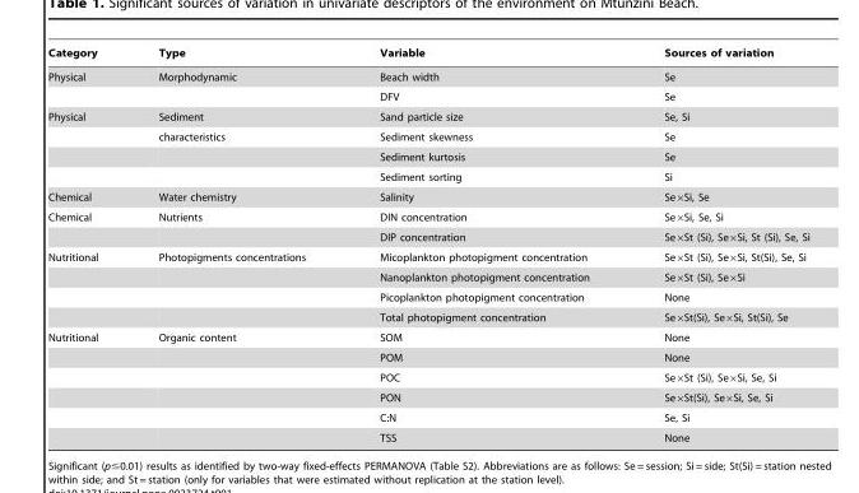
<table><thead><tr><td>Category</td><td>Type</td><td>Variable</td><td>Sources of variation</td></tr></thead><tbody><tr><td rowspan="2">Physical</td><td>Morphodynamic</td><td>Beach width</td><td>Se</td></tr><tr><td></td><td>DFV</td><td>Se</td></tr><tr><td rowspan="4">Physical</td><td>Sediment</td><td>Sand particle size</td><td>Se, Si</td></tr><tr><td>characteristics</td><td>Sediment skewness</td><td>Se</td></tr><tr><td></td><td>Sediment kurtosis</td><td>Se</td></tr><tr><td></td><td>Sediment sorting</td><td>Si</td></tr><tr><td>Chemical</td><td>Water chemistry</td><td>Salinity</td><td>Se×Si, Se</td></tr><tr><td rowspan="2">Chemical</td><td>Nutrients</td><td>DIN concentration</td><td>Se×Si, Se, Si</td></tr><tr><td></td><td>DIP concentration</td><td>Se×St (Si), Se×Si, St (Si), Se, Si</td></tr><tr><td rowspan="4">Nutritional</td><td>Photopigments concentrations</td><td>Micoplankton photopigment concentration</td><td>Se×St (Si), Se×Si, St(Si), Se, Si</td></tr><tr><td></td><td>Nanoplankton photopigment concentration</td><td>Se×St (Si), Se×Si</td></tr><tr><td></td><td>Picoplankton photopigment concentration</td><td>None</td></tr><tr><td></td><td>Total photopigment concentration</td><td>Se×St(Si), Se×Si, St(Si), Se</td></tr><tr><td rowspan="6">Nutritional</td><td>Organic content</td><td>SOM</td><td>None</td></tr><tr><td></td><td>POM</td><td>None</td></tr><tr><td></td><td>POC</td><td>Se×St (Si), Se×Si, Se, Si</td></tr><tr><td></td><td>PON</td><td>Se×St(Si), Se×Si, Se, Si</td></tr><tr><td></td><td>C:N</td><td>Se, Si</td></tr><tr><td></td><td>TSS</td><td>None</td></tr></tbody></table>